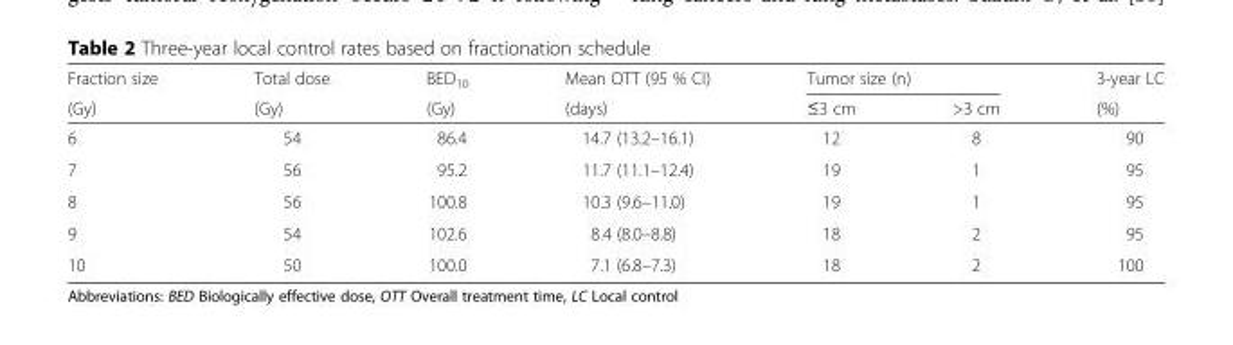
<table><thead><tr><td rowspan="2">Fraction size (Gy)</td><td rowspan="2">Total dose (Gy)</td><td rowspan="2">BED<sub>10</sub> (Gy)</td><td rowspan="2">Mean OTT (95 % CI) (days)</td><td colspan="2">Tumor size (n)</td><td rowspan="2">3-year LC (%)</td></tr><tr><td>≤3 cm</td><td>&gt;3 cm</td></tr></thead><tbody><tr><td>6</td><td>54</td><td>86.4</td><td>14.7 (13.2–16.1)</td><td>12</td><td>8</td><td>90</td></tr><tr><td>7</td><td>56</td><td>95.2</td><td>11.7 (11.1–12.4)</td><td>19</td><td>1</td><td>95</td></tr><tr><td>8</td><td>56</td><td>100.8</td><td>10.3 (9.6–11.0)</td><td>19</td><td>1</td><td>95</td></tr><tr><td>9</td><td>54</td><td>102.6</td><td>8.4 (8.0–8.8)</td><td>18</td><td>2</td><td>95</td></tr><tr><td>10</td><td>50</td><td>100.0</td><td>7.1 (6.8–7.3)</td><td>18</td><td>2</td><td>100</td></tr></tbody></table>